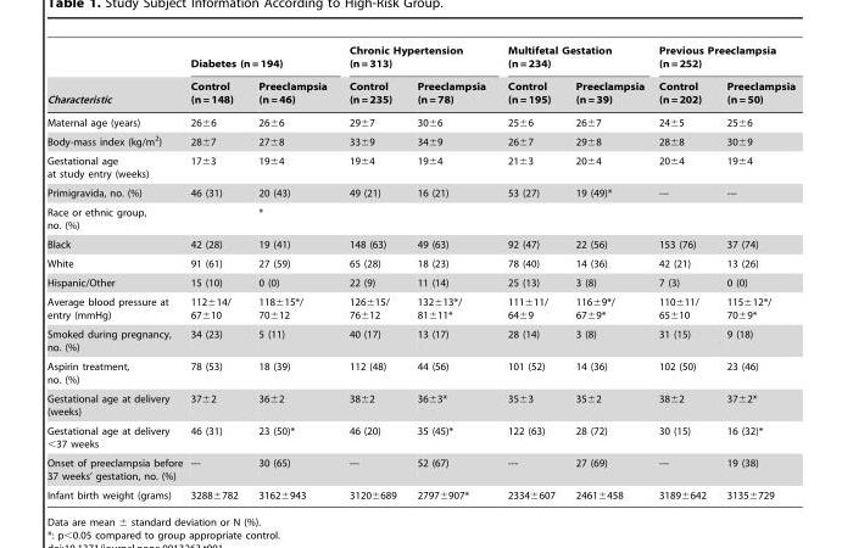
<table><thead><tr><td rowspan="2">Characteristic</td><td colspan="2">Diabetes (n = 194)</td><td colspan="2">Chronic Hypertension (n = 313)</td><td colspan="2">Multifetal Gestation (n = 234)</td><td colspan="2">Previous Preeclampsia (n = 252)</td></tr><tr><td>Control (n = 148)</td><td>Preeclampsia (n = 46)</td><td>Control (n = 235)</td><td>Preeclampsia (n = 78)</td><td>Control (n = 195)</td><td>Preeclampsia (n = 39)</td><td>Control (n = 202)</td><td>Preeclampsia (n = 50)</td></tr></thead><tbody><tr><td>Maternal age (years)</td><td>26±6</td><td>26±6</td><td>29±7</td><td>30±6</td><td>25±6</td><td>26±7</td><td>24±5</td><td>25±6</td></tr><tr><td>Body-mass index (kg/m<sup>2</sup>)</td><td>28±7</td><td>27±8</td><td>33±9</td><td>34±9</td><td>26±7</td><td>29±8</td><td>28±8</td><td>30±9</td></tr><tr><td>Gestational age at study entry (weeks)</td><td>17±3</td><td>19±4</td><td>19±4</td><td>19±4</td><td>21±3</td><td>20±4</td><td>20±4</td><td>19±4</td></tr><tr><td>Primigravida, no. (%)</td><td>46 (31)</td><td>20 (43)</td><td>49 (21)</td><td>16 (21)</td><td>53 (27)</td><td>19 (49)*</td><td>---</td><td>---</td></tr><tr><td>Race or ethnic group, no. (%)</td><td></td><td>*</td><td></td><td></td><td></td><td></td><td></td><td></td></tr><tr><td>Black</td><td>42 (28)</td><td>19 (41)</td><td>148 (63)</td><td>49 (63)</td><td>92 (47)</td><td>22 (56)</td><td>153 (76)</td><td>37 (74)</td></tr><tr><td>White</td><td>91 (61)</td><td>27 (59)</td><td>65 (28)</td><td>18 (23)</td><td>78 (40)</td><td>14 (36)</td><td>42 (21)</td><td>13 (26)</td></tr><tr><td>Hispanic/Other</td><td>15 (10)</td><td>0 (0)</td><td>22 (9)</td><td>11 (14)</td><td>25 (13)</td><td>3 (8)</td><td>7 (3)</td><td>0 (0)</td></tr><tr><td>Average blood pressure at entry (mmHg)</td><td>112±14/ 67±10</td><td>118±15*/ 70±12</td><td>126±15/ 76±12</td><td>132±13*/ 81±11*</td><td>111±11/ 64±9</td><td>116±9*/ 67±9*</td><td>110±11/ 65±10</td><td>115±12*/ 70±9*</td></tr><tr><td>Smoked during pregnancy, no. (%)</td><td>34 (23)</td><td>5 (11)</td><td>40 (17)</td><td>13 (17)</td><td>28 (14)</td><td>3 (8)</td><td>31 (15)</td><td>9 (18)</td></tr><tr><td>Aspirin treatment, no. (%)</td><td>78 (53)</td><td>18 (39)</td><td>112 (48)</td><td>44 (56)</td><td>101 (52)</td><td>14 (36)</td><td>102 (50)</td><td>23 (46)</td></tr><tr><td>Gestational age at delivery (weeks)</td><td>37±2</td><td>36±2</td><td>38±2</td><td>36±3*</td><td>35±3</td><td>35±2</td><td>38±2</td><td>37±2*</td></tr><tr><td>Gestational age at delivery &lt;37 weeks</td><td>46 (31)</td><td>23 (50)*</td><td>46 (20)</td><td>35 (45)*</td><td>122 (63)</td><td>28 (72)</td><td>30 (15)</td><td>16 (32)*</td></tr><tr><td>Onset of preeclampsia before 37 weeks’ gestation, no. (%)</td><td>---</td><td>30 (65)</td><td>---</td><td>52 (67)</td><td>---</td><td>27 (69)</td><td>---</td><td>19 (38)</td></tr><tr><td>Infant birth weight (grams)</td><td>3288±782</td><td>3162±943</td><td>3120±689</td><td>2797±907*</td><td>2334±607</td><td>2461±458</td><td>3189±642</td><td>3135±729</td></tr></tbody></table>